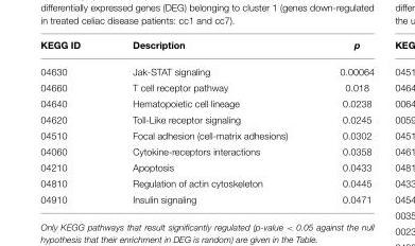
<table><thead><tr><td>KEGG ID</td><td>Description</td><td>p</td></tr></thead><tbody><tr><td>04630</td><td>Jak-STAT signaling</td><td>0.00064</td></tr><tr><td>04660</td><td>T cell receptor pathway</td><td>0.018</td></tr><tr><td>04640</td><td>Hematopoietic cell lineage</td><td>0.0238</td></tr><tr><td>04620</td><td>Toll-Like receptor signaling</td><td>0.0245</td></tr><tr><td>04510</td><td>Focal adhesion (cell-matrix adhesions)</td><td>0.0302</td></tr><tr><td>04060</td><td>Cytokine-receptors interactions</td><td>0.0358</td></tr><tr><td>04210</td><td>Apoptosis</td><td>0.0433</td></tr><tr><td>04810</td><td>Regulation of actin cytoskeleton</td><td>0.0445</td></tr><tr><td>04910</td><td>Insulin signaling</td><td>0.0471</td></tr></tbody></table>